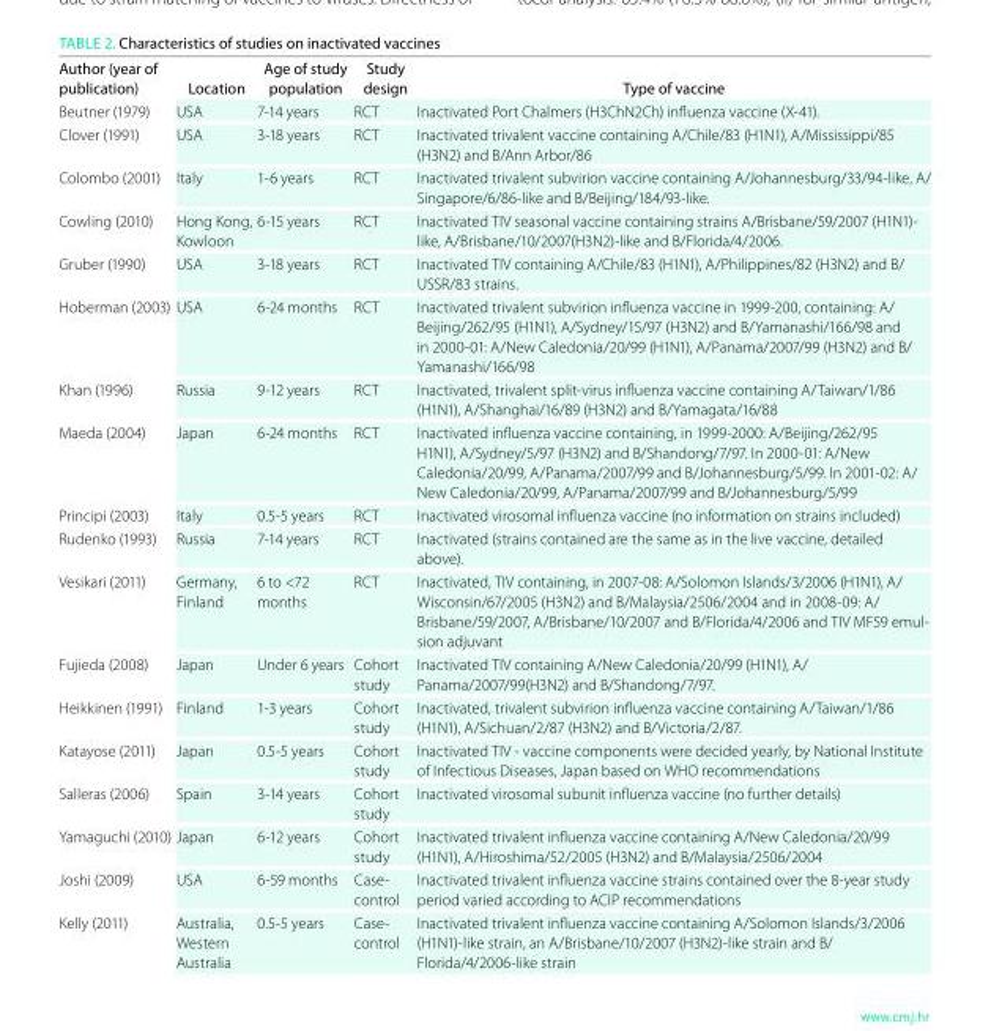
<table><thead><tr><td>Author (year of publication)</td><td>Location</td><td>Age of study population</td><td>Study design</td><td>type of vaccine</td></tr></thead><tbody><tr><td>Beutner (1979)</td><td>USA</td><td>7-14 years</td><td>RCT</td><td>Inactivated Port Chalmers (H3ChN2Ch) influenza vaccine (X-41).</td></tr><tr><td>Clover (1991)</td><td>USA</td><td>3-18 years</td><td>RCT</td><td>Inactivated trivalent vaccine containing A/Chile/83 (H1N1), A/Mississippi/85 (H3N2) and B/Ann Arbor/86</td></tr><tr><td>Colombo (2001)</td><td>Italy</td><td>1-6 years</td><td>RCT</td><td>Inactivated trivalent subvirion vaccine containing A/Johannesburg/33/94-like, A/ Singapore/6/86-like and B/Beijing/184/93-like.</td></tr><tr><td>Cowling (2010)</td><td>Hong Kong, Kowloon</td><td>6-15 years</td><td>RCT</td><td>Inactivated TIV seasonal vaccine containing strains A/Brisbane/59/2007 (H1N1)- like, A/Brisbane/10/2007(H3N2)-like and B/Florida/4/2006.</td></tr><tr><td>Gruber (1990)</td><td>USA</td><td>3-18 years</td><td>RCT</td><td>Inactivated TIV containing A/Chile/83 (H1N1), A/Philippines/82 (H3N2) and B/ USSR/83 strains.</td></tr><tr><td>Hoberman (2003)</td><td>USA</td><td>6-24 months</td><td>RCT</td><td>Inactivated trivalent subvirion influenza vaccine in 1999-200, containing: A/ Beijing/262/95 (H1N1), A/Sydney/15/97 (H3N2) and B/Yamanashi/166/98 and in 2000-01: A/New Caledonia/20/99 (H1N1), A/Panama/2007/99 (H3N2) and B/ Yamanashi/166/98</td></tr><tr><td>Khan (1996)</td><td>Russia</td><td>9-12 years</td><td>RCT</td><td>Inactivated, trivalent split-virus influenza vaccine containing A/Taiwan/1/86 (H1N1), A/Shanghai/16/89 (H3N2) and B/Yamagata/16/88</td></tr><tr><td>Maeda (2004)</td><td>Japan</td><td>6-24 months</td><td>RCT</td><td>Inactivated influenza vaccine containing, in 1999-2000: A/Beijing/262/95 H1N1), A/Sydney/5/97 (H3N2) and B/Shandong/7/97. In 2000-01: A/New Caledonia/20/99, A/Panama/2007/99 and B/Johannesburg/5/99. In 2001-02: A/ New Caledonia/20/99, A/Panama/2007/99 and B/Johannesburg/5/99</td></tr><tr><td>Principi (2003)</td><td>Italy</td><td>0.5-5 years</td><td>RCT</td><td>Inactivated virosomal influenza vaccine (no information on strains included)</td></tr><tr><td>Rudenko (1993)</td><td>Russia</td><td>7-14 years</td><td>RCT</td><td>Inactivated (strains contained are the same as in the live vaccine, detailed above).</td></tr><tr><td>Vesikari (2011)</td><td>Germany, Finland</td><td>6 to &lt;72 months</td><td>RCT</td><td>Inactivated, TIV containing, in 2007-08: A/Solomon Islands/3/2006 (H1N1), A/ Wisconsin/67/2005 (H3N2) and B/Malaysia/2506/2004 and in 2008-09: A/ Brisbane/59/2007, A/Brisbane/10/2007 and B/Florida/4/2006 and TIV MF59 emul- sion adjuvant</td></tr><tr><td>Fujieda (2008)</td><td>Japan</td><td>Under 6 years</td><td>Cohort study</td><td>Inactivated TIV containing A/New Caledonia/20/99 (H1N1), A/ Panama/2007/99(H3N2) and B/Shandong/7/97.</td></tr><tr><td>Heikkinen (1991)</td><td>Finland</td><td>1-3 years</td><td>Cohort study</td><td>Inactivated, trivalent subvirion influenza vaccine containing A/Taiwan/1/86 (H1N1), A/Sichuan/2/87 (H3N2) and B/Victoria/2/87.</td></tr><tr><td>Katayose (2011)</td><td>Japan</td><td>0.5-5 years</td><td>Cohort study</td><td>Inactivated TIV - vaccine components were decided yearly, by National Institute of Infectious Diseases, Japan based on WHO recommendations</td></tr><tr><td>Salleras (2006)</td><td>Spain</td><td>3-14 years</td><td>Cohort study</td><td>Inactivated virosomal subunit influenza vaccine (no further details)</td></tr><tr><td>Yamaguchi (2010)</td><td>Japan</td><td>6-12 years</td><td>Cohort study</td><td>Inactivated trivalent influenza vaccine containing A/New Caledonia/20/99 (H1N1), A/Hiroshima/52/2005 (H3N2) and B/Malaysia/2506/2004</td></tr><tr><td>Joshi (2009)</td><td>USA</td><td>6-59 months</td><td>Case- control</td><td>Inactivated trivalent influenza vaccine strains contained over the 8-year study period varied according to ACIP recommendations</td></tr><tr><td>Kelly (2011)</td><td>Australia, Western Australia</td><td>0.5-5 years</td><td>Case- control</td><td>Inactivated trivalent influenza vaccine containing A/Solomon Islands/3/2006 (H1N1)-like strain, an A/Brisbane/10/2007 (H3N2)-like strain and B/ Florida/4/2006-like strain</td></tr></tbody></table>